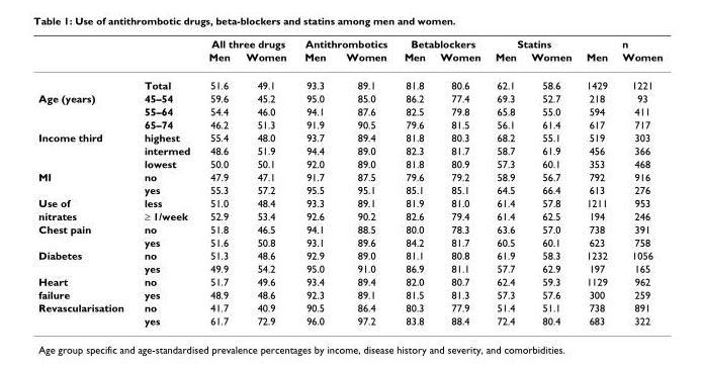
<table><thead><tr><td rowspan="2"></td><td rowspan="2"></td><td colspan="2">All three drugs</td><td colspan="2">Antithrombotics</td><td colspan="2">Betablockers</td><td colspan="2">Statins</td><td colspan="2">n</td></tr><tr><td>Men</td><td>Women</td><td>Men</td><td>Women</td><td>Men</td><td>Women</td><td>Men</td><td>Women</td><td>Men</td><td>Women</td></tr></thead><tbody><tr><td></td><td>Total</td><td>51.6</td><td>49.1</td><td>93.3</td><td>89.1</td><td>81.8</td><td>80.6</td><td>62.1</td><td>58.6</td><td>1429</td><td>1221</td></tr><tr><td rowspan="3">Age (years)</td><td>45–54</td><td>59.6</td><td>45.2</td><td>95.0</td><td>85.0</td><td>86.2</td><td>77.4</td><td>69.3</td><td>52.7</td><td>218</td><td>93</td></tr><tr><td>55–64</td><td>54.4</td><td>46.0</td><td>94.1</td><td>87.6</td><td>82.5</td><td>79.8</td><td>65.8</td><td>55.0</td><td>594</td><td>411</td></tr><tr><td>65–74</td><td>46.2</td><td>51.3</td><td>91.9</td><td>90.5</td><td>79.6</td><td>81.5</td><td>56.1</td><td>61.4</td><td>617</td><td>717</td></tr><tr><td rowspan="3">Income third</td><td>highest</td><td>55.4</td><td>48.0</td><td>93.7</td><td>89.4</td><td>81.8</td><td>80.3</td><td>68.2</td><td>55.1</td><td>519</td><td>303</td></tr><tr><td>intermed</td><td>48.6</td><td>51.9</td><td>94.4</td><td>89.0</td><td>82.3</td><td>81.7</td><td>58.7</td><td>61.9</td><td>456</td><td>366</td></tr><tr><td>lowest</td><td>50.0</td><td>50.1</td><td>92.0</td><td>89.0</td><td>81.8</td><td>80.9</td><td>57.3</td><td>60.1</td><td>353</td><td>468</td></tr><tr><td rowspan="2">MI</td><td>no</td><td>47.9</td><td>47.1</td><td>91.7</td><td>87.5</td><td>79.6</td><td>79.2</td><td>58.9</td><td>56.7</td><td>792</td><td>916</td></tr><tr><td>yes</td><td>55.3</td><td>57.2</td><td>95.5</td><td>95.1</td><td>85.1</td><td>85.1</td><td>64.5</td><td>66.4</td><td>613</td><td>276</td></tr><tr><td>Use of</td><td>less</td><td>51.0</td><td>48.4</td><td>93.3</td><td>89.1</td><td>81.9</td><td>81.0</td><td>61.4</td><td>57.8</td><td>1211</td><td>953</td></tr><tr><td>nitrates</td><td>≥ 1/week</td><td>52.9</td><td>53.4</td><td>92.6</td><td>90.2</td><td>82.6</td><td>79.4</td><td>61.4</td><td>62.5</td><td>194</td><td>246</td></tr><tr><td rowspan="2">Chest pain</td><td>no</td><td>51.8</td><td>46.5</td><td>94.1</td><td>88.5</td><td>80.0</td><td>78.3</td><td>63.6</td><td>57.0</td><td>738</td><td>391</td></tr><tr><td>yes</td><td>51.6</td><td>50.8</td><td>93.1</td><td>89.6</td><td>84.2</td><td>81.7</td><td>60.5</td><td>60.1</td><td>623</td><td>758</td></tr><tr><td rowspan="2">Diabetes</td><td>no</td><td>51.3</td><td>48.6</td><td>92.9</td><td>89.0</td><td>81.1</td><td>80.8</td><td>61.9</td><td>58.3</td><td>1232</td><td>1056</td></tr><tr><td>yes</td><td>49.9</td><td>54.2</td><td>95.0</td><td>91.0</td><td>86.9</td><td>81.1</td><td>57.7</td><td>62.9</td><td>197</td><td>165</td></tr><tr><td>Heart</td><td>no</td><td>51.7</td><td>49.6</td><td>93.4</td><td>89.4</td><td>82.0</td><td>80.7</td><td>62.4</td><td>59.3</td><td>1129</td><td>962</td></tr><tr><td>failure</td><td>yes</td><td>48.9</td><td>48.6</td><td>92.3</td><td>89.1</td><td>81.5</td><td>81.3</td><td>57.3</td><td>57.6</td><td>300</td><td>259</td></tr><tr><td rowspan="2">Revascularisation</td><td>no</td><td>41.7</td><td>40.9</td><td>90.5</td><td>86.4</td><td>80.3</td><td>77.9</td><td>51.4</td><td>51.1</td><td>738</td><td>891</td></tr><tr><td>yes</td><td>61.7</td><td>72.9</td><td>96.0</td><td>97.2</td><td>83.8</td><td>88.4</td><td>72.4</td><td>80.4</td><td>683</td><td>322</td></tr></tbody></table>